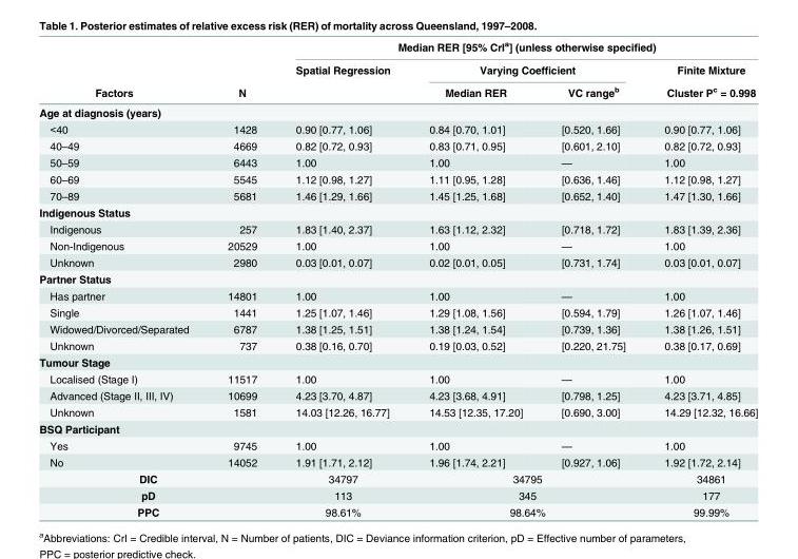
<table><thead><tr><td rowspan="3">Factors</td><td rowspan="3">N</td><td colspan="4">Median RER [95% CrI<sup>a</sup>] (unless otherwise specified)</td></tr><tr><td rowspan="2">Spatial Regression</td><td colspan="2">Varying Coefficient</td><td rowspan="2">Finite Mixture Cluster P<sup>c</sup> = 0.998</td></tr><tr><td>Median RER</td><td>VC range<sup>b</sup></td></tr></thead><tbody><tr><td colspan="6">Age at diagnosis (years)</td></tr><tr><td>&lt;40</td><td>1428</td><td>0.90 [0.77, 1.06]</td><td>0.84 [0.70, 1.01]</td><td>[0.520, 1.66]</td><td>0.90 [0.77, 1.06]</td></tr><tr><td>40–49</td><td>4669</td><td>0.82 [0.72, 0.93]</td><td>0.83 [0.71, 0.95]</td><td>[0.601, 2.10]</td><td>0.82 [0.72, 0.93]</td></tr><tr><td>50–59</td><td>6443</td><td>1.00</td><td>1.00</td><td>—</td><td>1.00</td></tr><tr><td>60–69</td><td>5545</td><td>1.12 [0.98, 1.27]</td><td>1.11 [0.95, 1.28]</td><td>[0.636, 1.46]</td><td>1.12 [0.98, 1.27]</td></tr><tr><td>70–89</td><td>5681</td><td>1.46 [1.29, 1.66]</td><td>1.45 [1.25, 1.68]</td><td>[0.652, 1.40]</td><td>1.47 [1.30, 1.66]</td></tr><tr><td colspan="6">Indigenous Status</td></tr><tr><td>Indigenous</td><td>257</td><td>1.83 [1.40, 2.37]</td><td>1.63 [1.12, 2.32]</td><td>[0.718, 1.72]</td><td>1.83 [1.39, 2.36]</td></tr><tr><td>Non-Indigenous</td><td>20529</td><td>1.00</td><td>1.00</td><td>—</td><td>1.00</td></tr><tr><td>Unknown</td><td>2980</td><td>0.03 [0.01, 0.07]</td><td>0.02 [0.01, 0.05]</td><td>[0.731, 1.74]</td><td>0.03 [0.01, 0.07]</td></tr><tr><td colspan="6">Partner Status</td></tr><tr><td>Has partner</td><td>14801</td><td>1.00</td><td>1.00</td><td>—</td><td>1.00</td></tr><tr><td>Single</td><td>1441</td><td>1.25 [1.07, 1.46]</td><td>1.29 [1.08, 1.56]</td><td>[0.594, 1.79]</td><td>1.26 [1.07, 1.46]</td></tr><tr><td>Widowed/Divorced/Separated</td><td>6787</td><td>1.38 [1.25, 1.51]</td><td>1.38 [1.24, 1.54]</td><td>[0.739, 1.36]</td><td>1.38 [1.26, 1.51]</td></tr><tr><td>Unknown</td><td>737</td><td>0.38 [0.16, 0.70]</td><td>0.19 [0.03, 0.52]</td><td>[0.220, 21.75]</td><td>0.38 [0.17, 0.69]</td></tr><tr><td colspan="6">Tumour Stage</td></tr><tr><td>Localised (Stage I)</td><td>11517</td><td>1.00</td><td>1.00</td><td>—</td><td>1.00</td></tr><tr><td>Advanced (Stage II, III, IV)</td><td>10699</td><td>4.23 [3.70, 4.87]</td><td>4.23 [3.68, 4.91]</td><td>[0.798, 1.25]</td><td>4.23 [3.71, 4.85]</td></tr><tr><td>Unknown</td><td>1581</td><td>14.03 [12.26, 16.77]</td><td>14.53 [12.35, 17.20]</td><td>[0.690, 3.00]</td><td>14.29 [12.32, 16.66]</td></tr><tr><td colspan="6">BSQ Participant</td></tr><tr><td>Yes</td><td>9745</td><td>1.00</td><td>1.00</td><td>—</td><td>1.00</td></tr><tr><td>No</td><td>14052</td><td>1.91 [1.71, 2.12]</td><td>1.96 [1.74, 2.21]</td><td>[0.927, 1.06]</td><td>1.92 [1.72, 2.14]</td></tr><tr><td colspan="2">DIC</td><td>34797</td><td colspan="2">34795</td><td>34861</td></tr><tr><td colspan="2">pD</td><td>113</td><td colspan="2">345</td><td>177</td></tr><tr><td colspan="2">PPC</td><td>98.61%</td><td colspan="2">98.64%</td><td>99.99%</td></tr></tbody></table>